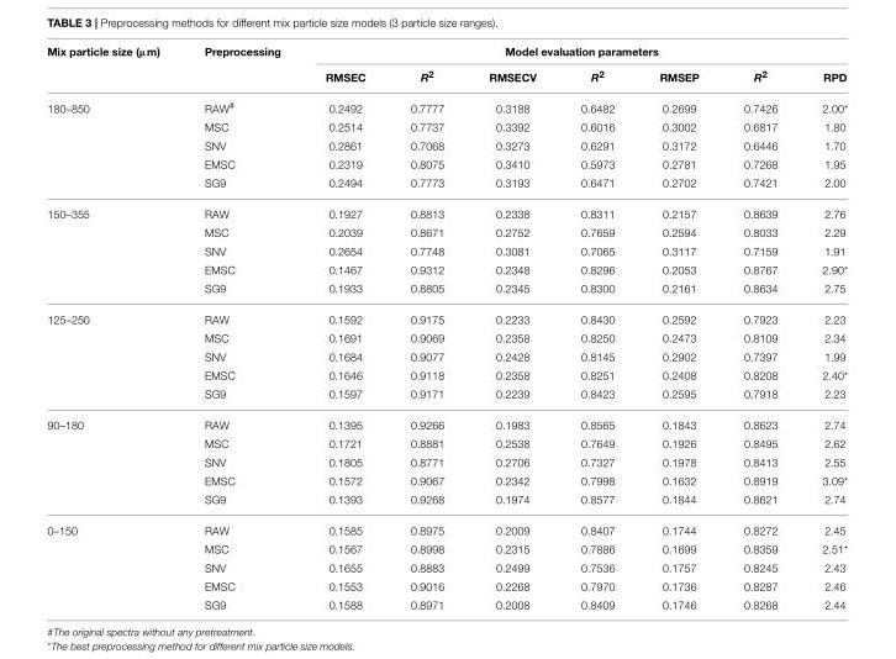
<table><thead><tr><td rowspan="2">Mix particle size (µm)</td><td rowspan="2">Preprocessing</td><td colspan="7">Model evaluation parameters</td></tr><tr><td>RMSEC</td><td>R<sup>2</sup></td><td>RMSECV</td><td>R<sup>2</sup></td><td>RMSEP</td><td>R<sup>2</sup></td><td>RPD</td></tr></thead><tbody><tr><td rowspan="5">180–850</td><td>RAW<sup>#</sup></td><td>0.2492</td><td>0.7777</td><td>0.3188</td><td>0.6482</td><td>0.2699</td><td>0.7426</td><td>2.00*</td></tr><tr><td>MSC</td><td>0.2514</td><td>0.7737</td><td>0.3392</td><td>0.6016</td><td>0.3002</td><td>0.6817</td><td>1.80</td></tr><tr><td>SNV</td><td>0.2861</td><td>0.7068</td><td>0.3273</td><td>0.6291</td><td>0.3172</td><td>0.6446</td><td>1.70</td></tr><tr><td>EMSC</td><td>0.2319</td><td>0.8075</td><td>0.3410</td><td>0.5973</td><td>0.2781</td><td>0.7268</td><td>1.95</td></tr><tr><td>SG9</td><td>0.2494</td><td>0.7773</td><td>0.3193</td><td>0.6471</td><td>0.2702</td><td>0.7421</td><td>2.00</td></tr><tr><td rowspan="5">150–355</td><td>RAW</td><td>0.1927</td><td>0.8813</td><td>0.2338</td><td>0.8311</td><td>0.2157</td><td>0.8639</td><td>2.76</td></tr><tr><td>MSC</td><td>0.2039</td><td>0.8671</td><td>0.2752</td><td>0.7659</td><td>0.2594</td><td>0.8033</td><td>2.29</td></tr><tr><td>SNV</td><td>0.2654</td><td>0.7748</td><td>0.3081</td><td>0.7065</td><td>0.3117</td><td>0.7159</td><td>1.91</td></tr><tr><td>EMSC</td><td>0.1467</td><td>0.9312</td><td>0.2348</td><td>0.8296</td><td>0.2053</td><td>0.8767</td><td>2.90*</td></tr><tr><td>SG9</td><td>0.1933</td><td>0.8805</td><td>0.2345</td><td>0.8300</td><td>0.2161</td><td>0.8634</td><td>2.75</td></tr><tr><td rowspan="5">125–250</td><td>RAW</td><td>0.1592</td><td>0.9175</td><td>0.2233</td><td>0.8430</td><td>0.2592</td><td>0.7923</td><td>2.23</td></tr><tr><td>MSC</td><td>0.1691</td><td>0.9069</td><td>0.2358</td><td>0.8250</td><td>0.2473</td><td>0.8109</td><td>2.34</td></tr><tr><td>SNV</td><td>0.1684</td><td>0.9077</td><td>0.2428</td><td>0.8145</td><td>0.2902</td><td>0.7397</td><td>1.99</td></tr><tr><td>EMSC</td><td>0.1646</td><td>0.9118</td><td>0.2358</td><td>0.8251</td><td>0.2408</td><td>0.8208</td><td>2.40*</td></tr><tr><td>SG9</td><td>0.1597</td><td>0.9171</td><td>0.2239</td><td>0.8423</td><td>0.2595</td><td>0.7918</td><td>2.23</td></tr><tr><td rowspan="5">90–180</td><td>RAW</td><td>0.1395</td><td>0.9266</td><td>0.1983</td><td>0.8565</td><td>0.1843</td><td>0.8623</td><td>2.74</td></tr><tr><td>MSC</td><td>0.1721</td><td>0.8881</td><td>0.2538</td><td>0.7649</td><td>0.1926</td><td>0.8495</td><td>2.62</td></tr><tr><td>SNV</td><td>0.1805</td><td>0.8771</td><td>0.2706</td><td>0.7327</td><td>0.1978</td><td>0.8413</td><td>2.55</td></tr><tr><td>EMSC</td><td>0.1572</td><td>0.9067</td><td>0.2342</td><td>0.7998</td><td>0.1632</td><td>0.8919</td><td>3.09*</td></tr><tr><td>SG9</td><td>0.1393</td><td>0.9268</td><td>0.1974</td><td>0.8577</td><td>0.1844</td><td>0.8621</td><td>2.74</td></tr><tr><td rowspan="5">0–150</td><td>RAW</td><td>0.1585</td><td>0.8975</td><td>0.2009</td><td>0.8407</td><td>0.1744</td><td>0.8272</td><td>2.45</td></tr><tr><td>MSC</td><td>0.1567</td><td>0.8998</td><td>0.2315</td><td>0.7886</td><td>0.1699</td><td>0.8359</td><td>2.51*</td></tr><tr><td>SNV</td><td>0.1655</td><td>0.8883</td><td>0.2499</td><td>0.7536</td><td>0.1757</td><td>0.8245</td><td>2.43</td></tr><tr><td>EMSC</td><td>0.1553</td><td>0.9016</td><td>0.2268</td><td>0.7970</td><td>0.1736</td><td>0.8287</td><td>2.46</td></tr><tr><td>SG9</td><td>0.1588</td><td>0.8971</td><td>0.2008</td><td>0.8409</td><td>0.1746</td><td>0.8268</td><td>2.44</td></tr></tbody></table>